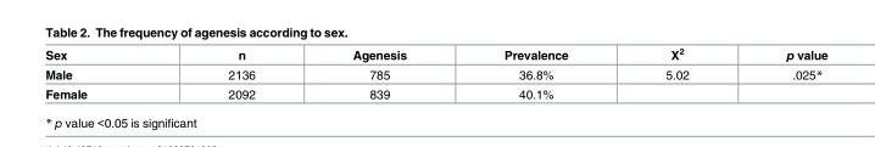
<table><thead><tr><td>Sex</td><td>n</td><td>Agenesis</td><td>Prevalence</td><td>X<sup>2</sup></td><td>p value</td></tr></thead><tbody><tr><td>Male</td><td>2136</td><td>785</td><td>36.8%</td><td>5.02</td><td>.025*</td></tr><tr><td>Female</td><td>2092</td><td>839</td><td>40.1%</td><td></td><td></td></tr></tbody></table>